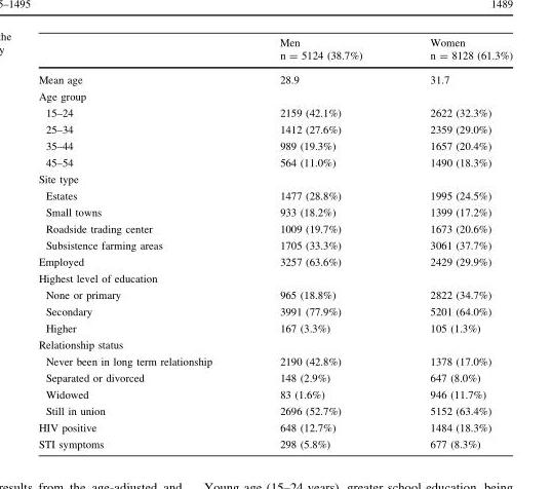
<table><thead><tr><td></td><td>Men n = 5124 (38.7%)</td><td>Women n = 8128 (61.3%)</td></tr></thead><tbody><tr><td>Mean age</td><td>28.9</td><td>31.7</td></tr><tr><td colspan="3">Age group</td></tr><tr><td>15–24</td><td>2159 (42.1%)</td><td>2622 (32.3%)</td></tr><tr><td>25–34</td><td>1412 (27.6%)</td><td>2359 (29.0%)</td></tr><tr><td>35–44</td><td>989 (19.3%)</td><td>1657 (20.4%)</td></tr><tr><td>45–54</td><td>564 (11.0%)</td><td>1490 (18.3%)</td></tr><tr><td colspan="3">Site type</td></tr><tr><td>Estates</td><td>1477 (28.8%)</td><td>1995 (24.5%)</td></tr><tr><td>Small towns</td><td>933 (18.2%)</td><td>1399 (17.2%)</td></tr><tr><td>Roadside trading center</td><td>1009 (19.7%)</td><td>1673 (20.6%)</td></tr><tr><td>Subsistence farming areas</td><td>1705 (33.3%)</td><td>3061 (37.7%)</td></tr><tr><td>Employed</td><td>3257 (63.6%)</td><td>2429 (29.9%)</td></tr><tr><td colspan="3">Highest level of education</td></tr><tr><td>None or primary</td><td>965 (18.8%)</td><td>2822 (34.7%)</td></tr><tr><td>Secondary</td><td>3991 (77.9%)</td><td>5201 (64.0%)</td></tr><tr><td>Higher</td><td>167 (3.3%)</td><td>105 (1.3%)</td></tr><tr><td colspan="3">Relationship status</td></tr><tr><td>Never been in long term relationship</td><td>2190 (42.8%)</td><td>1378 (17.0%)</td></tr><tr><td>Separated or divorced</td><td>148 (2.9%)</td><td>647 (8.0%)</td></tr><tr><td>Widowed</td><td>83 (1.6%)</td><td>946 (11.7%)</td></tr><tr><td>Still in union</td><td>2696 (52.7%)</td><td>5152 (63.4%)</td></tr><tr><td>HIV positive</td><td>648 (12.7%)</td><td>1484 (18.3%)</td></tr><tr><td>STI symptoms</td><td>298 (5.8%)</td><td>677 (8.3%)</td></tr></tbody></table>